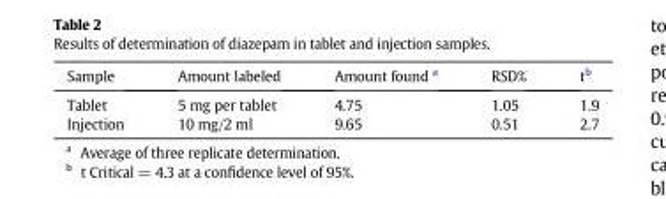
<table><thead><tr><td>Sample</td><td>Amount labeled</td><td>Amount found a</td><td>RSD%</td><td>t<sup>b</sup></td></tr></thead><tbody><tr><td>Tablet</td><td>5 mg per tablet</td><td>4.75</td><td>1.05</td><td>1.9</td></tr><tr><td>Injection</td><td>10 mg/2 ml</td><td>9.65</td><td>0.51</td><td>2.7</td></tr></tbody></table>